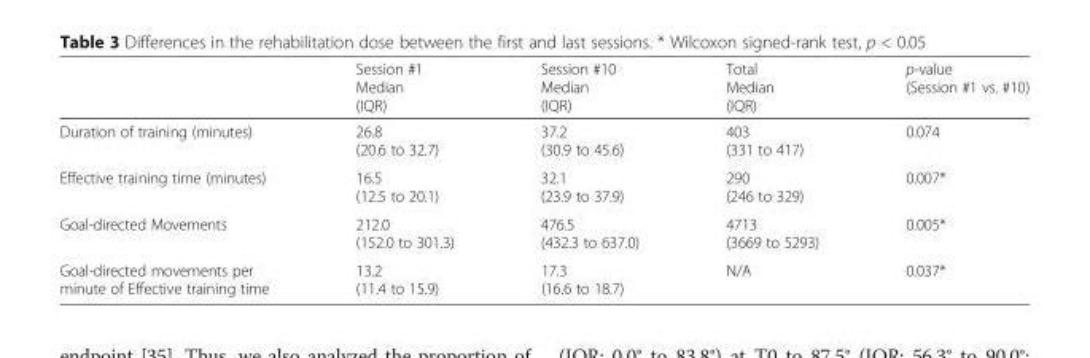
<table><thead><tr><td></td><td>Session #1 Median (IQR)</td><td>Session #10 Median (IQR)</td><td>Total Median (IQR)</td><td>p-value (Session #1 vs. #10)</td></tr></thead><tbody><tr><td>Duration of training (minutes)</td><td>26.8 (20.6 to 32.7)</td><td>37.2 (30.9 to 45.6)</td><td>403 (331 to 417)</td><td>0.074</td></tr><tr><td>Effective training time (minutes)</td><td>16.5 (12.5 to 20.1)</td><td>32.1 (23.9 to 37.9)</td><td>290 (246 to 329)</td><td>0.007*</td></tr><tr><td>Goal-directed Movements</td><td>212.0 (152.0 to 301.3)</td><td>476.5 (432.3 to 637.0)</td><td>4713 (3669 to 5293)</td><td>0.005*</td></tr><tr><td>Goal-directed movements per minute of Effective training time</td><td>13.2 (11.4 to 15.9)</td><td>17.3 (16.6 to 18.7)</td><td>N/A</td><td>0.037*</td></tr></tbody></table>